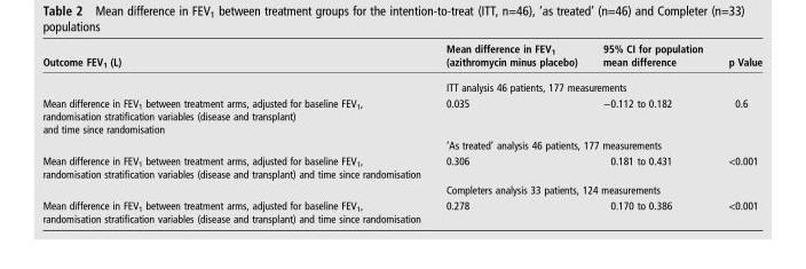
<table><thead><tr><td>Outcome FEV<sub>1</sub> (L)</td><td>Mean difference in FEV<sub>1</sub> (azithromycin minus placebo)</td><td>95% CI for population mean difference</td><td>p Value</td></tr></thead><tbody><tr><td></td><td colspan="2">ITT analysis 46 patients, 177 measurements</td><td></td></tr><tr><td rowspan="2">Mean difference in FEV<sub>1</sub> between treatment arms, adjusted for baseline FEV<sub>1</sub>, randomisation stratification variables (disease and transplant) and time since randomisation</td><td>0.035</td><td>−0.112 to 0.182</td><td>0.6</td></tr><tr><td colspan="2">‘As treated’ analysis 46 patients, 177 measurements</td><td></td></tr><tr><td rowspan="2">Mean difference in FEV<sub>1</sub> between treatment arms, adjusted for baseline FEV<sub>1</sub>, randomisation stratification variables (disease and transplant) and time since randomisation</td><td>0.306</td><td>0.181 to 0.431</td><td>&lt;0.001</td></tr><tr><td colspan="2">Completers analysis 33 patients, 124 measurements</td><td></td></tr><tr><td>Mean difference in FEV<sub>1</sub> between treatment arms, adjusted for baseline FEV<sub>1</sub>, randomisation stratification variables (disease and transplant) and time since randomisation</td><td>0.278</td><td>0.170 to 0.386</td><td>&lt;0.001</td></tr></tbody></table>